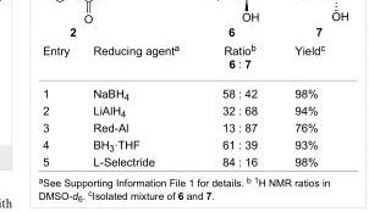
<table><tbody><tr><td>Entry</td><td>Reducing agent<sup>a</sup></td><td>Ratio<sup>b</sup> 6 : 7</td><td>Yield<sup>c</sup></td></tr><tr><td>1</td><td>NaBH<sub>4</sub></td><td>58 : 42</td><td>98%</td></tr><tr><td>2</td><td>LiAlH<sub>4</sub></td><td>32 : 68</td><td>94%</td></tr><tr><td>3</td><td>Red-Al</td><td>13 : 87</td><td>76%</td></tr><tr><td>4</td><td>BH<sub>3</sub>·THF</td><td>61 : 39</td><td>93%</td></tr><tr><td>5</td><td>L-Selectride</td><td>84 : 16</td><td>98%</td></tr></tbody></table>